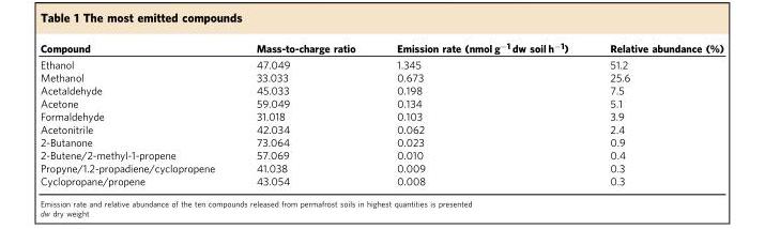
<table><thead><tr><td>Compound</td><td>Mass-to-charge ratio</td><td>Emission rate (nmol g<sup>−1</sup> dw soil h<sup>−1</sup>)</td><td>Relative abundance (%)</td></tr></thead><tbody><tr><td>Ethanol</td><td>47.049</td><td>1.345</td><td>51.2</td></tr><tr><td>Methanol</td><td>33.033</td><td>0.673</td><td>25.6</td></tr><tr><td>Acetaldehyde</td><td>45.033</td><td>0.198</td><td>7.5</td></tr><tr><td>Acetone</td><td>59.049</td><td>0.134</td><td>5.1</td></tr><tr><td>Formaldehyde</td><td>31.018</td><td>0.103</td><td>3.9</td></tr><tr><td>Acetonitrile</td><td>42.034</td><td>0.062</td><td>2.4</td></tr><tr><td>2-Butanone</td><td>73.064</td><td>0.023</td><td>0.9</td></tr><tr><td>2-Butene/2-methyl-1-propene</td><td>57.069</td><td>0.010</td><td>0.4</td></tr><tr><td>Propyne/1.2-propadiene/cyclopropene</td><td>41.038</td><td>0.009</td><td>0.3</td></tr><tr><td>Cyclopropane/propene</td><td>43.054</td><td>0.008</td><td>0.3</td></tr></tbody></table>